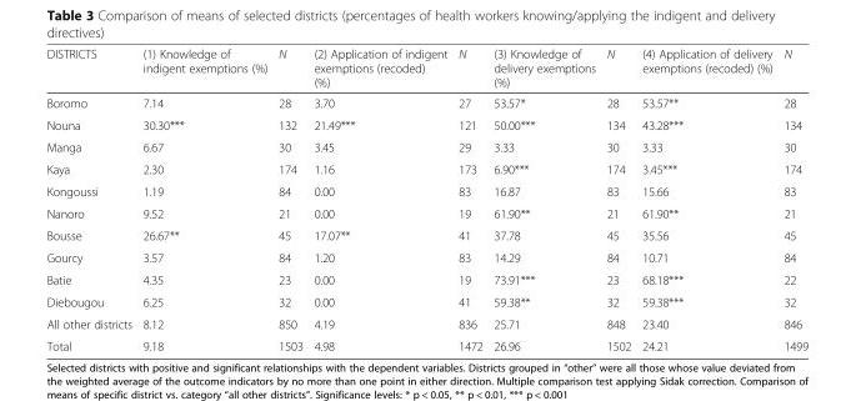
<table><thead><tr><td>DISTRICTS</td><td>(1) Knowledge of indigent exemptions (%)</td><td>N</td><td>(2) Application of indigent exemptions (recoded) (%)</td><td>N</td><td>(3) Knowledge of delivery exemptions (%)</td><td>N</td><td>(4) Application of delivery exemptions (recoded) (%)</td><td>N</td></tr></thead><tbody><tr><td>Boromo</td><td>7.14</td><td>28</td><td>3.70</td><td>27</td><td>53.57*</td><td>28</td><td>53.57**</td><td>28</td></tr><tr><td>Nouna</td><td>30.30***</td><td>132</td><td>21.49***</td><td>121</td><td>50.00***</td><td>134</td><td>43.28***</td><td>134</td></tr><tr><td>Manga</td><td>6.67</td><td>30</td><td>3.45</td><td>29</td><td>3.33</td><td>30</td><td>3.33</td><td>30</td></tr><tr><td>Kaya</td><td>2.30</td><td>174</td><td>1.16</td><td>173</td><td>6.90***</td><td>174</td><td>3.45***</td><td>174</td></tr><tr><td>Kongoussi</td><td>1.19</td><td>84</td><td>0.00</td><td>83</td><td>16.87</td><td>83</td><td>15.66</td><td>83</td></tr><tr><td>Nanoro</td><td>9.52</td><td>21</td><td>0.00</td><td>19</td><td>61.90**</td><td>21</td><td>61.90**</td><td>21</td></tr><tr><td>Bousse</td><td>26.67**</td><td>45</td><td>17.07**</td><td>41</td><td>37.78</td><td>45</td><td>35.56</td><td>45</td></tr><tr><td>Gourcy</td><td>3.57</td><td>84</td><td>1.20</td><td>83</td><td>14.29</td><td>84</td><td>10.71</td><td>84</td></tr><tr><td>Batie</td><td>4.35</td><td>23</td><td>0.00</td><td>19</td><td>73.91***</td><td>23</td><td>68.18***</td><td>22</td></tr><tr><td>Diebougou</td><td>6.25</td><td>32</td><td>0.00</td><td>41</td><td>59.38**</td><td>32</td><td>59.38***</td><td>32</td></tr><tr><td>All other districts</td><td>8.12</td><td>850</td><td>4.19</td><td>836</td><td>25.71</td><td>848</td><td>23.40</td><td>846</td></tr><tr><td>Total</td><td>9.18</td><td>1503</td><td>4.98</td><td>1472</td><td>26.96</td><td>1502</td><td>24.21</td><td>1499</td></tr></tbody></table>